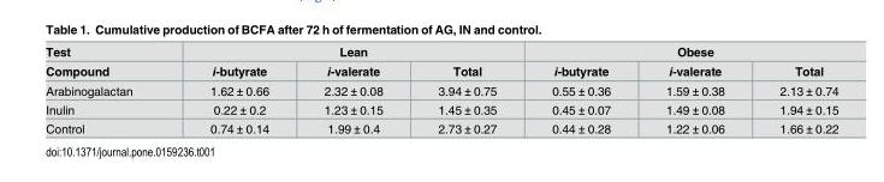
<table><thead><tr><td rowspan="2">Test Compound</td><td colspan="3">Lean</td><td colspan="3">Obese</td></tr><tr><td>i-butyrate</td><td>i-valerate</td><td>Total</td><td>i-butyrate</td><td>i-valerate</td><td>Total</td></tr></thead><tbody><tr><td>Arabinogalactan</td><td>1.62 ± 0.66</td><td>2.32 ± 0.08</td><td>3.94 ± 0.75</td><td>0.55 ± 0.36</td><td>1.59 ± 0.38</td><td>2.13 ± 0.74</td></tr><tr><td>Inulin</td><td>0.22 ± 0.2</td><td>1.23 ± 0.15</td><td>1.45 ± 0.35</td><td>0.45 ± 0.07</td><td>1.49 ± 0.08</td><td>1.94 ± 0.15</td></tr><tr><td>Control</td><td>0.74 ± 0.14</td><td>1.99 ± 0.4</td><td>2.73 ± 0.27</td><td>0.44 ± 0.28</td><td>1.22 ± 0.06</td><td>1.66 ± 0.22</td></tr></tbody></table>